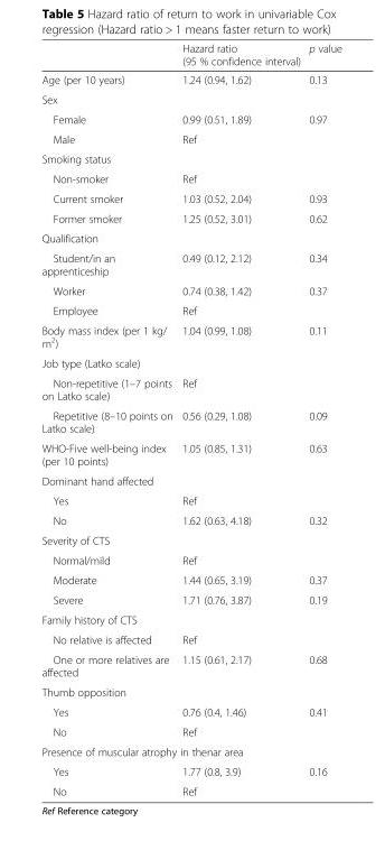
<table><thead><tr><td></td><td>Hazard ratio (95 % confidence interval)</td><td>p value</td></tr></thead><tbody><tr><td>Age (per 10 years)</td><td>1.24 (0.94, 1.62)</td><td>0.13</td></tr><tr><td colspan="3">Sex</td></tr><tr><td>Female</td><td>0.99 (0.51, 1.89)</td><td>0.97</td></tr><tr><td>Male</td><td>Ref</td><td></td></tr><tr><td colspan="3">Smoking status</td></tr><tr><td>Non-smoker</td><td>Ref</td><td></td></tr><tr><td>Current smoker</td><td>1.03 (0.52, 2.04)</td><td>0.93</td></tr><tr><td>Former smoker</td><td>1.25 (0.52, 3.01)</td><td>0.62</td></tr><tr><td colspan="3">Qualification</td></tr><tr><td>Student/in an apprenticeship</td><td>0.49 (0.12, 2.12)</td><td>0.34</td></tr><tr><td>Worker</td><td>0.74 (0.38, 1.42)</td><td>0.37</td></tr><tr><td>Employee</td><td>Ref</td><td></td></tr><tr><td>Body mass index (per 1 kg/ m<sup>2</sup>)</td><td>1.04 (0.99, 1.08)</td><td>0.11</td></tr><tr><td colspan="3">Job type (Latko scale)</td></tr><tr><td>Non-repetitive (1–7 points on Latko scale)</td><td>Ref</td><td></td></tr><tr><td>Repetitive (8–10 points on Latko scale)</td><td>0.56 (0.29, 1.08)</td><td>0.09</td></tr><tr><td>WHO-Five well-being index (per 10 points)</td><td>1.05 (0.85, 1.31)</td><td>0.63</td></tr><tr><td colspan="3">Dominant hand affected</td></tr><tr><td>Yes</td><td>Ref</td><td></td></tr><tr><td>No</td><td>1.62 (0.63, 4.18)</td><td>0.32</td></tr><tr><td colspan="3">Severity of CTS</td></tr><tr><td>Normal/mild</td><td>Ref</td><td></td></tr><tr><td>Moderate</td><td>1.44 (0.65, 3.19)</td><td>0.37</td></tr><tr><td>Severe</td><td>1.71 (0.76, 3.87)</td><td>0.19</td></tr><tr><td colspan="3">Family history of CTS</td></tr><tr><td>No relative is affected</td><td>Ref</td><td></td></tr><tr><td>One or more relatives are affected</td><td>1.15 (0.61, 2.17)</td><td>0.68</td></tr><tr><td colspan="3">Thumb opposition</td></tr><tr><td>Yes</td><td>0.76 (0.4, 1.46)</td><td>0.41</td></tr><tr><td>No</td><td>Ref</td><td></td></tr><tr><td colspan="3">Presence of muscular atrophy in thenar area</td></tr><tr><td>Yes</td><td>1.77 (0.8, 3.9)</td><td>0.16</td></tr><tr><td>No</td><td>Ref</td><td></td></tr></tbody></table>